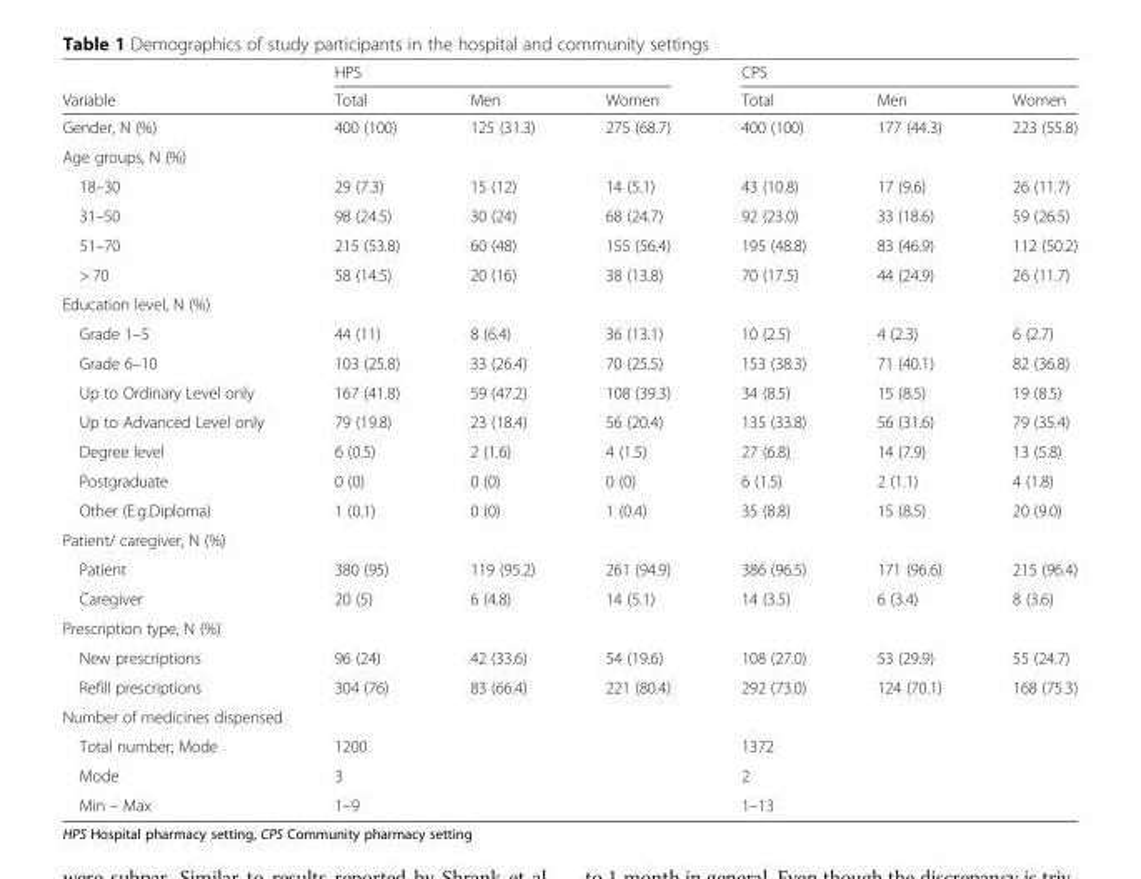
<table><thead><tr><td rowspan="2">Variable</td><td colspan="3">HPS</td><td colspan="3">CPS</td></tr><tr><td>Total</td><td>Men</td><td>Women</td><td>Total</td><td>Men</td><td>Women</td></tr></thead><tbody><tr><td>Gender, N (%)</td><td>400 (100)</td><td>125 (31.3)</td><td>275 (68.7)</td><td>400 (100)</td><td>177 (44.3)</td><td>223 (55.8)</td></tr><tr><td colspan="7">Age groups, N (%)</td></tr><tr><td>18–30</td><td>29 (7.3)</td><td>15 (12)</td><td>14 (5.1)</td><td>43 (10.8)</td><td>17 (9.6)</td><td>26 (11.7)</td></tr><tr><td>31–50</td><td>98 (24.5)</td><td>30 (24)</td><td>68 (24.7)</td><td>92 (23.0)</td><td>33 (18.6)</td><td>59 (26.5)</td></tr><tr><td>51–70</td><td>215 (53.8)</td><td>60 (48)</td><td>155 (56.4)</td><td>195 (48.8)</td><td>83 (46.9)</td><td>112 (50.2)</td></tr><tr><td>&gt; 70</td><td>58 (14.5)</td><td>20 (16)</td><td>38 (13.8)</td><td>70 (17.5)</td><td>44 (24.9)</td><td>26 (11.7)</td></tr><tr><td colspan="7">Education level, N (%)</td></tr><tr><td>Grade 1–5</td><td>44 (11)</td><td>8 (6.4)</td><td>36 (13.1)</td><td>10 (2.5)</td><td>4 (2.3)</td><td>6 (2.7)</td></tr><tr><td>Grade 6–10</td><td>103 (25.8)</td><td>33 (26.4)</td><td>70 (25.5)</td><td>153 (38.3)</td><td>71 (40.1)</td><td>82 (36.8)</td></tr><tr><td>Up to Ordinary Level only</td><td>167 (41.8)</td><td>59 (47.2)</td><td>108 (39.3)</td><td>34 (8.5)</td><td>15 (8.5)</td><td>19 (8.5)</td></tr><tr><td>Up to Advanced Level only</td><td>79 (19.8)</td><td>23 (18.4)</td><td>56 (20.4)</td><td>135 (33.8)</td><td>56 (31.6)</td><td>79 (35.4)</td></tr><tr><td>Degree level</td><td>6 (0.5)</td><td>2 (1.6)</td><td>4 (1.5)</td><td>27 (6.8)</td><td>14 (7.9)</td><td>13 (5.8)</td></tr><tr><td>Postgraduate</td><td>0 (0)</td><td>0 (0)</td><td>0 (0)</td><td>6 (1.5)</td><td>2 (1.1)</td><td>4 (1.8)</td></tr><tr><td>Other (E.g.Diploma)</td><td>1 (0.1)</td><td>0 (0)</td><td>1 (0.4)</td><td>35 (8.8)</td><td>15 (8.5)</td><td>20 (9.0)</td></tr><tr><td colspan="7">Patient/ caregiver, N (%)</td></tr><tr><td>Patient</td><td>380 (95)</td><td>119 (95.2)</td><td>261 (94.9)</td><td>386 (96.5)</td><td>171 (96.6)</td><td>215 (96.4)</td></tr><tr><td>Caregiver</td><td>20 (5)</td><td>6 (4.8)</td><td>14 (5.1)</td><td>14 (3.5)</td><td>6 (3.4)</td><td>8 (3.6)</td></tr><tr><td colspan="7">Prescription type, N (%)</td></tr><tr><td>New prescriptions</td><td>96 (24)</td><td>42 (33.6)</td><td>54 (19.6)</td><td>108 (27.0)</td><td>53 (29.9)</td><td>55 (24.7)</td></tr><tr><td>Refill prescriptions</td><td>304 (76)</td><td>83 (66.4)</td><td>221 (80.4)</td><td>292 (73.0)</td><td>124 (70.1)</td><td>168 (75.3)</td></tr><tr><td colspan="7">Number of medicines dispensed</td></tr><tr><td>Total number; Mode</td><td>1200</td><td></td><td></td><td>1372</td><td></td><td></td></tr><tr><td>Mode</td><td>3</td><td></td><td></td><td>2</td><td></td><td></td></tr><tr><td>Min – Max</td><td>1–9</td><td></td><td></td><td>1–13</td><td></td><td></td></tr></tbody></table>